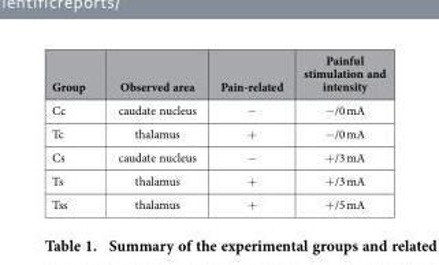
<table><thead><tr><td>Group</td><td>Observed area</td><td>Pain-related</td><td>Painful stimulation and intensity</td></tr></thead><tbody><tr><td>Cc</td><td>caudate nucleus</td><td>−</td><td>− /0 mA</td></tr><tr><td>Tc</td><td>thalamus</td><td>+</td><td>− /0 mA</td></tr><tr><td>Cs</td><td>caudate nucleus</td><td>−</td><td>+ /3 mA</td></tr><tr><td>Ts</td><td>thalamus</td><td>+</td><td>+ /3 mA</td></tr><tr><td>Tss</td><td>thalamus</td><td>+</td><td>+ /5 mA</td></tr></tbody></table>